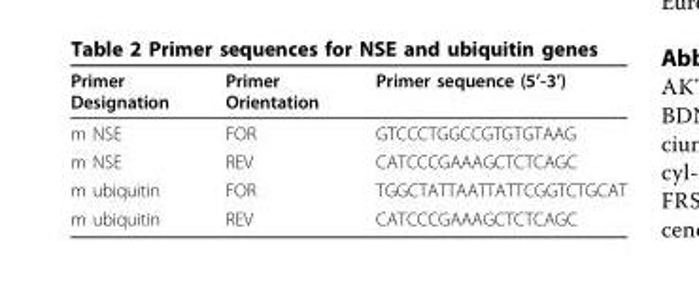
<table><thead><tr><td>Primer Designation</td><td>Primer Orientation</td><td>Primer sequence (5’-3’)</td></tr></thead><tbody><tr><td>m NSE</td><td>FOR</td><td>GTCCCTGGCCGTGTGTAAG</td></tr><tr><td>m NSE</td><td>REV</td><td>CATCCCGAAAGCTCTCAGC</td></tr><tr><td>m ubiquitin</td><td>FOR</td><td>TGGCTATTAATTATTCGGTCTGCAT</td></tr><tr><td>m ubiquitin</td><td>REV</td><td>CATCCCGAAAGCTCTCAGC</td></tr></tbody></table>